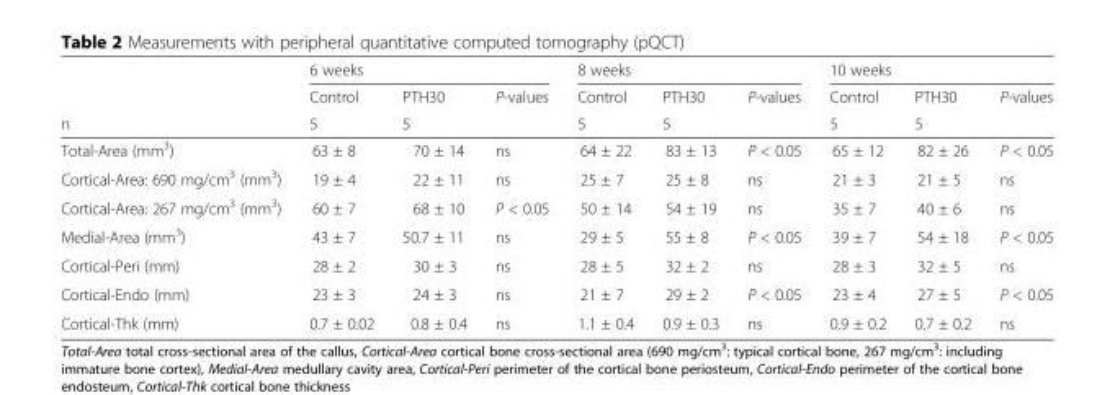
<table><thead><tr><td rowspan="3">n</td><td colspan="3">6 weeks</td><td colspan="3">8 weeks</td><td colspan="3">10 weeks</td></tr><tr><td rowspan="2">Control 5</td><td rowspan="2">PTH30 5</td><td rowspan="2">P-values</td><td rowspan="2">Control 5</td><td rowspan="2">PTH30 5</td><td rowspan="2">P-values</td><td rowspan="2">Control 5</td><td rowspan="2">PTH30 5</td><td rowspan="2">P-values</td></tr><tr></tr></thead><tbody><tr><td>Total-Area (mm<sup>3</sup>)</td><td>63 ± 8</td><td>70 ± 14</td><td>ns</td><td>64 ± 22</td><td>83 ± 13</td><td>P &lt; 0.05</td><td>65 ± 12</td><td>82 ± 26</td><td>P &lt; 0.05</td></tr><tr><td>Cortical-Area: 690 mg/cm<sup>3</sup> (mm<sup>3</sup>)</td><td>19 ± 4</td><td>22 ± 11</td><td>ns</td><td>25 ± 7</td><td>25 ± 8</td><td>ns</td><td>21 ± 3</td><td>21 ± 5</td><td>ns</td></tr><tr><td>Cortical-Area: 267 mg/cm<sup>3</sup> (mm<sup>3</sup>)</td><td>60 ± 7</td><td>68 ± 10</td><td>P &lt; 0.05</td><td>50 ± 14</td><td>54 ± 19</td><td>ns</td><td>35 ± 7</td><td>40 ± 6</td><td>ns</td></tr><tr><td>Medial-Area (mm<sup>3</sup>)</td><td>43 ± 7</td><td>50.7 ± 11</td><td>ns</td><td>29 ± 5</td><td>55 ± 8</td><td>P &lt; 0.05</td><td>39 ± 7</td><td>54 ± 18</td><td>P &lt; 0.05</td></tr><tr><td>Cortical-Peri (mm)</td><td>28 ± 2</td><td>30 ± 3</td><td>ns</td><td>28 ± 5</td><td>32 ± 2</td><td>ns</td><td>28 ± 3</td><td>32 ± 5</td><td>ns</td></tr><tr><td>Cortical-Endo (mm)</td><td>23 ± 3</td><td>24 ± 3</td><td>ns</td><td>21 ± 7</td><td>29 ± 2</td><td>P &lt; 0.05</td><td>23 ± 4</td><td>27 ± 5</td><td>P &lt; 0.05</td></tr><tr><td>Cortical-Thk (mm)</td><td>0.7 ± 0.02</td><td>0.8 ± 0.4</td><td>ns</td><td>1.1 ± 0.4</td><td>0.9 ± 0.3</td><td>ns</td><td>0.9 ± 0.2</td><td>0.7 ± 0.2</td><td>ns</td></tr></tbody></table>